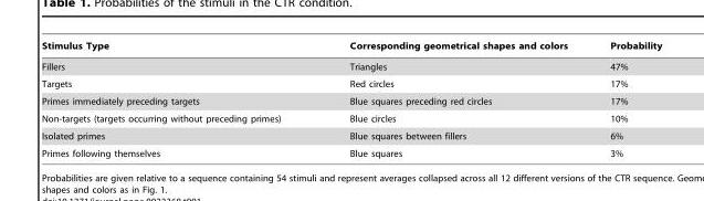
<table><thead><tr><td>Stimulus Type</td><td>Corresponding geometrical shapes and colors</td><td>Probability</td></tr></thead><tbody><tr><td>Fillers</td><td>Triangles</td><td>47%</td></tr><tr><td>Targets</td><td>Red circles</td><td>17%</td></tr><tr><td>Primes immediately preceding targets</td><td>Blue squares preceding red circles</td><td>17%</td></tr><tr><td>Non-targets (targets occurring without preceding primes)</td><td>Blue circles</td><td>10%</td></tr><tr><td>Isolated primes</td><td>Blue squares between fillers</td><td>6%</td></tr><tr><td>Primes following themselves</td><td>Blue squares</td><td>3%</td></tr></tbody></table>